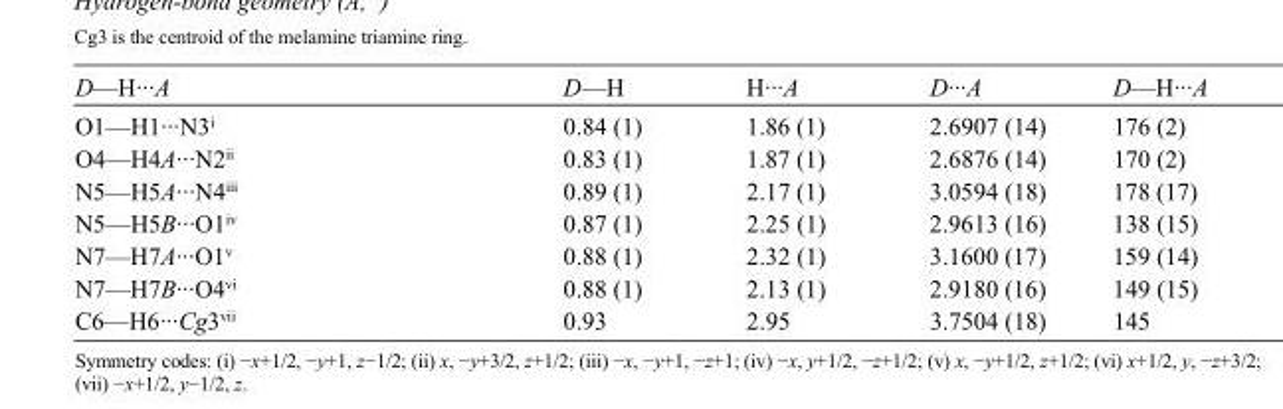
<table><tbody><tr><td>D—H···A</td><td>D—H</td><td>H···A</td><td>D···A</td><td>D—H···A</td></tr><tr><td>O1—H1···N3<sup>i</sup></td><td>0.84 (1)</td><td>1.86 (1)</td><td>2.6907 (14)</td><td>176 (2)</td></tr><tr><td>O4—H4A···N2<sup>ii</sup></td><td>0.83 (1)</td><td>1.87 (1)</td><td>2.6876 (14)</td><td>170 (2)</td></tr><tr><td>N5—H5A···N4<sup>iii</sup></td><td>0.89 (1)</td><td>2.17 (1)</td><td>3.0594 (18)</td><td>178 (17)</td></tr><tr><td>N5—H5B···O1<sup>iv</sup></td><td>0.87 (1)</td><td>2.25 (1)</td><td>2.9613 (16)</td><td>138 (15)</td></tr><tr><td>N7—H7A···O1<sup>v</sup></td><td>0.88 (1)</td><td>2.32 (1)</td><td>3.1600 (17)</td><td>159 (14)</td></tr><tr><td>N7—H7B···O4<sup>vi</sup></td><td>0.88 (1)</td><td>2.13 (1)</td><td>2.9180 (16)</td><td>149 (15)</td></tr><tr><td>C6—H6···Cg3<sup>vii</sup></td><td>0.93</td><td>2.95</td><td>3.7504 (18)</td><td>145</td></tr></tbody></table>